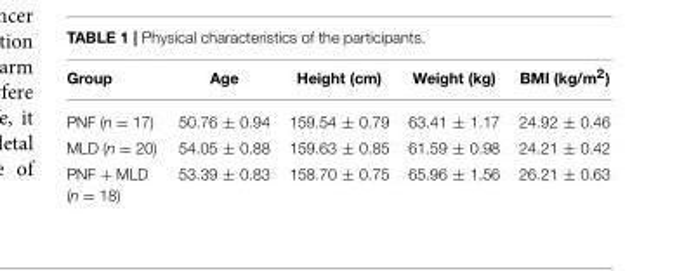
<table><thead><tr><td>Group</td><td>Age</td><td>Height (cm)</td><td>Weight (kg)</td><td>BMI (kg/m<sup>2</sup>)</td></tr></thead><tbody><tr><td>PNF (n = 17)</td><td>50.76 ± 0.94</td><td>159.54 ± 0.79</td><td>63.41 ± 1.17</td><td>24.92 ± 0.46</td></tr><tr><td>MLD (n = 20)</td><td>54.05 ± 0.88</td><td>159.63 ± 0.85</td><td>61.59 ± 0.98</td><td>24.21 ± 0.42</td></tr><tr><td>PNF + MLD (n = 18)</td><td>53.39 ± 0.83</td><td>158.70 ± 0.75</td><td>65.96 ± 1.56</td><td>26.21 ± 0.63</td></tr></tbody></table>